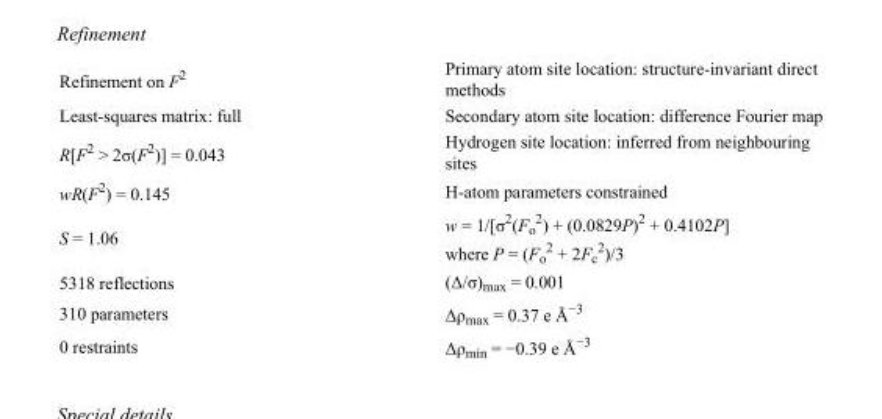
<table><tbody><tr><td>Refinement on F<sup>2</sup></td><td>Primary atom site location: structure-invariant direct methods</td></tr><tr><td>Least-squares matrix: full</td><td>Secondary atom site location: difference Fourier map</td></tr><tr><td>R[F<sup>2</sup> &gt; 2σ(F<sup>2</sup>)] = 0.043</td><td>Hydrogen site location: inferred from neighbouring sites</td></tr><tr><td>wR(F<sup>2</sup>) = 0.145</td><td>H-atom parameters constrained</td></tr><tr><td>S = 1.06</td><td>w = 1/[σ<sup>2</sup>(F<sub>o</sub> <sup>2</sup>) + (0.0829P)<sup>2</sup> + 0.4102P] where P = (F<sub>o</sub> <sup>2</sup> + 2F<sub>c</sub> <sup>2</sup>)/3</td></tr><tr><td>5318 reflections</td><td>(Δ/σ)<sub>max</sub> = 0.001</td></tr><tr><td>310 parameters</td><td>Δρ<sub>max</sub> = 0.37 e Å<sup>−3</sup></td></tr><tr><td>0 restraints</td><td>Δρ<sub>min</sub> = −0.39 e Å<sup>−3</sup></td></tr></tbody></table>